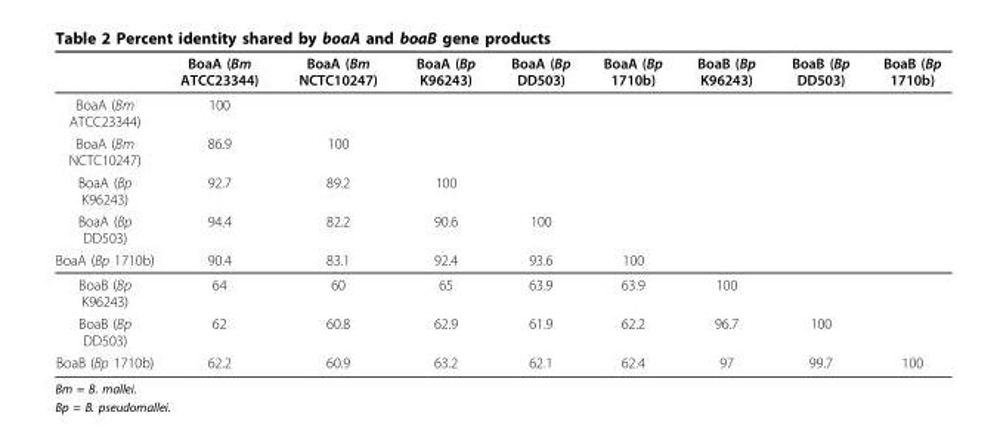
<table><thead><tr><td></td><td>BoaA (Bm ATCC23344)</td><td>BoaA (Bm NCTC10247)</td><td>BoaA (Bp K96243)</td><td>BoaA (Bp DD503)</td><td>BoaA (Bp 1710b)</td><td>BoaB (Bp K96243)</td><td>BoaB (Bp DD503)</td><td>BoaB (Bp 1710b)</td></tr></thead><tbody><tr><td>BoaA (Bm ATCC23344)</td><td>100</td><td></td><td></td><td></td><td></td><td></td><td></td><td></td></tr><tr><td>BoaA (Bm NCTC10247)</td><td>86.9</td><td>100</td><td></td><td></td><td></td><td></td><td></td><td></td></tr><tr><td>BoaA (Bp K96243)</td><td>92.7</td><td>89.2</td><td>100</td><td></td><td></td><td></td><td></td><td></td></tr><tr><td>BoaA (Bp DD503)</td><td>94.4</td><td>82.2</td><td>90.6</td><td>100</td><td></td><td></td><td></td><td></td></tr><tr><td>BoaA (Bp 1710b)</td><td>90.4</td><td>83.1</td><td>92.4</td><td>93.6</td><td>100</td><td></td><td></td><td></td></tr><tr><td>BoaB (Bp K96243)</td><td>64</td><td>60</td><td>65</td><td>63.9</td><td>63.9</td><td>100</td><td></td><td></td></tr><tr><td>BoaB (Bp DD503)</td><td>62</td><td>60.8</td><td>62.9</td><td>61.9</td><td>62.2</td><td>96.7</td><td>100</td><td></td></tr><tr><td>BoaB (Bp 1710b)</td><td>62.2</td><td>60.9</td><td>63.2</td><td>62.1</td><td>62.4</td><td>97</td><td>99.7</td><td>100</td></tr></tbody></table>